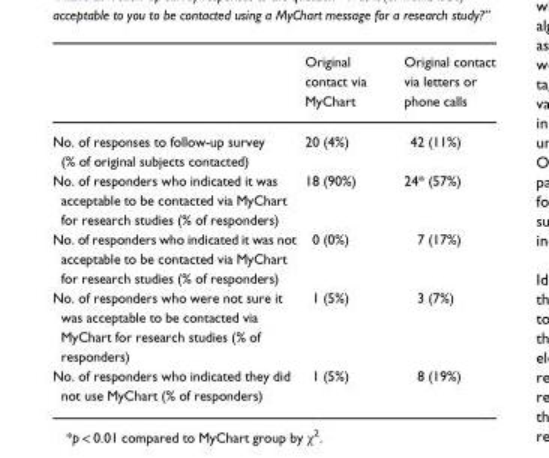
<table><thead><tr><td></td><td>Original contact via MyChart</td><td>Original contact via letters or phone calls</td></tr></thead><tbody><tr><td>No. of responses to follow-up survey (% of original subjects contacted)</td><td>20 (4%)</td><td>42 (11%)</td></tr><tr><td>No. of responders who indicated it was acceptable to be contacted via MyChart for research studies (% of responders)</td><td>18 (90%)</td><td>24* (57%)</td></tr><tr><td>No. of responders who indicated it was not acceptable to be contacted via MyChart for research studies (% of responders)</td><td>0 (0%)</td><td>7 (17%)</td></tr><tr><td>No. of responders who were not sure it was acceptable to be contacted via MyChart for research studies (% of responders)</td><td>1 (5%)</td><td>3 (7%)</td></tr><tr><td>No. of responders who indicated they did not use MyChart (% of responders)</td><td>1 (5%)</td><td>8 (19%)</td></tr></tbody></table>